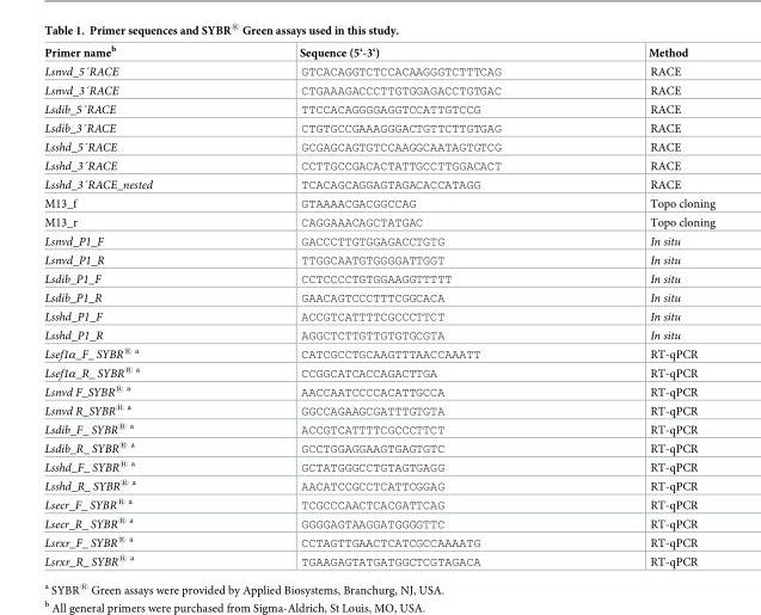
<table><thead><tr><td>Primer name<sup>b</sup></td><td>Sequence (5‘-3‘)</td><td>Method</td></tr></thead><tbody><tr><td>Lsnvd_5´RACE</td><td>GTCACAGGTCTCCACAAGGGTCTTTCAG</td><td>RACE</td></tr><tr><td>Lsnvd_3´RACE</td><td>CTGAAAGACCCTTGTGGAGACCTGTGAC</td><td>RACE</td></tr><tr><td>Lsdib_5´RACE</td><td>TTCCACAGGGGAGGTCCATTGTCCG</td><td>RACE</td></tr><tr><td>Lsdib_3´RACE</td><td>CTGTGCCGAAAGGGACTGTTCTTGTGAG</td><td>RACE</td></tr><tr><td>Lsshd_5´RACE</td><td>GCGAGCAGTGTCCAAGGCAATAGTGTCG</td><td>RACE</td></tr><tr><td>Lsshd_3´RACE</td><td>CCTTGCCGACACTATTGCCTTGGACACT</td><td>RACE</td></tr><tr><td>Lsshd_3´RACE_nested</td><td>TCACAGCAGGAGTAGACACCATAGG</td><td>RACE</td></tr><tr><td>M13_f</td><td>GTAAAACGACGGCCAG</td><td>Topo cloning</td></tr><tr><td>M13_r</td><td>CAGGAAACAGCTATGAC</td><td>Topo cloning</td></tr><tr><td>Lsnvd_P1_F</td><td>GACCCTTGTGGAGACCTGTG</td><td>In situ</td></tr><tr><td>Lsnvd_P1_R</td><td>TTGGCAATGTGGGGATTGGT</td><td>In situ</td></tr><tr><td>Lsdib_P1_F</td><td>CCTCCCCTGTGGAAGGTTTTT</td><td>In situ</td></tr><tr><td>Lsdib_P1_R</td><td>GAACAGTCCCTTTCGGCACA</td><td>In situ</td></tr><tr><td>Lsshd_P1_F</td><td>ACCGTCATTTTCGCCCTTCT</td><td>In situ</td></tr><tr><td>Lsshd_P1_R</td><td>AGGCTCTTGTTGTGTGCGTA</td><td>In situ</td></tr><tr><td>Lsef1α_F_ SYBR<sup>® a</sup></td><td>CATCGCCTGCAAGTTTAACCAAATT</td><td>RT-qPCR</td></tr><tr><td>Lsef1α_R_ SYBR<sup>® a</sup></td><td>CCGGCATCACCAGACTTGA</td><td>RT-qPCR</td></tr><tr><td>Lsnvd F_SYBR<sup>® a</sup></td><td>AACCAATCCCCACATTGCCA</td><td>RT-qPCR</td></tr><tr><td>Lsnvd R_SYBR<sup>® a</sup></td><td>GGCCAGAAGCGATTTGTGTA</td><td>RT-qPCR</td></tr><tr><td>Lsdib_F_ SYBR<sup>® a</sup></td><td>ACCGTCATTTTCGCCCTTCT</td><td>RT-qPCR</td></tr><tr><td>Lsdib_R_ SYBR<sup>® a</sup></td><td>GCCTGGAGGAAGTGAGTGTC</td><td>RT-qPCR</td></tr><tr><td>Lsshd_F_ SYBR<sup>® a</sup></td><td>GCTATGGGCCTGTAGTGAGG</td><td>RT-qPCR</td></tr><tr><td>Lsshd_R_ SYBR<sup>® a</sup></td><td>AACATCCGCCTCATTCGGAG</td><td>RT-qPCR</td></tr><tr><td>Lsecr_F_ SYBR<sup>® a</sup></td><td>TCGCCCAACTCACGATTCAG</td><td>RT-qPCR</td></tr><tr><td>Lsecr_R_ SYBR<sup>® a</sup></td><td>GGGGAGTAAGGATGGGGTTC</td><td>RT-qPCR</td></tr><tr><td>Lsrxr_F_ SYBR<sup>® a</sup></td><td>CCTAGTTGAACTCATCGCCAAAATG</td><td>RT-qPCR</td></tr><tr><td>Lsrxr_R_ SYBR<sup>® a</sup></td><td>TGAAGAGTATGATGGCTCGTAGACA</td><td>RT-qPCR</td></tr></tbody></table>